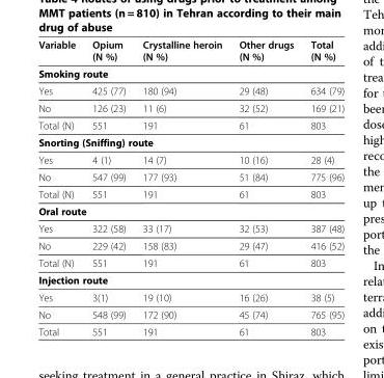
<table><thead><tr><td>Variable</td><td>Opium (N %)</td><td>Crystalline heroin (N %)</td><td>Other drugs (N %)</td><td>Total (N %)</td></tr></thead><tbody><tr><td colspan="5">Smoking route</td></tr><tr><td>Yes</td><td>425 (77)</td><td>180 (94)</td><td>29 (48)</td><td>634 (79)</td></tr><tr><td>No</td><td>126 (23)</td><td>11 (6)</td><td>32 (52)</td><td>169 (21)</td></tr><tr><td>Total (N)</td><td>551</td><td>191</td><td>61</td><td>803</td></tr><tr><td colspan="5">Snorting (Sniffing) route</td></tr><tr><td>Yes</td><td>4 (1)</td><td>14 (7)</td><td>10 (16)</td><td>28 (4)</td></tr><tr><td>No</td><td>547 (99)</td><td>177 (93)</td><td>51 (84)</td><td>775 (96)</td></tr><tr><td>Total (N)</td><td>551</td><td>191</td><td>61</td><td>803</td></tr><tr><td colspan="5">Oral route</td></tr><tr><td>Yes</td><td>322 (58)</td><td>33 (17)</td><td>32 (53)</td><td>387 (48)</td></tr><tr><td>No</td><td>229 (42)</td><td>158 (83)</td><td>29 (47)</td><td>416 (52)</td></tr><tr><td>Total (N)</td><td>551</td><td>191</td><td>61</td><td>803</td></tr><tr><td colspan="5">Injection route</td></tr><tr><td>Yes</td><td>3(1)</td><td>19 (10)</td><td>16 (26)</td><td>38 (5)</td></tr><tr><td>No</td><td>548 (99)</td><td>172 (90)</td><td>45 (74)</td><td>765 (95)</td></tr><tr><td>Total</td><td>551</td><td>191</td><td>61</td><td>803</td></tr></tbody></table>